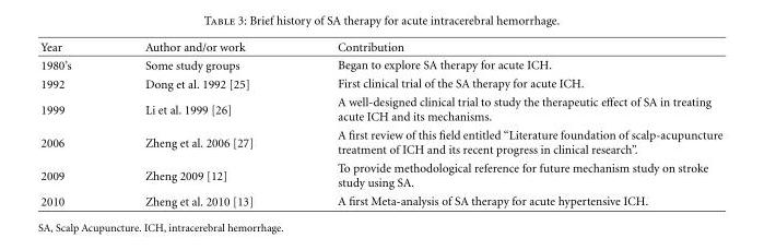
<table><thead><tr><td>Year</td><td>Author and/or work</td><td>Contribution</td></tr></thead><tbody><tr><td>1980’s</td><td>Some study groups</td><td>Began to explore SA therapy for acute ICH.</td></tr><tr><td>1992</td><td>Dong et al. 1992 [25]</td><td>First clinical trial of the SA therapy for acute ICH.</td></tr><tr><td>1999</td><td>Li et al. 1999 [26]</td><td>A well-designed clinical trial to study the therapeutic effect of SA in treating acute ICH and its mechanisms.</td></tr><tr><td>2006</td><td>Zheng et al. 2006 [27]</td><td>A first review of this field entitled “Literature foundation of scalp-acupuncture treatment of ICH and its recent progress in clinical research”.</td></tr><tr><td>2009</td><td>Zheng 2009 [12]</td><td>To provide methodological reference for future mechanism study on stroke study using SA.</td></tr><tr><td>2010</td><td>Zheng et al. 2010 [13]</td><td>A first Meta-analysis of SA therapy for acute hypertensive ICH.</td></tr></tbody></table>